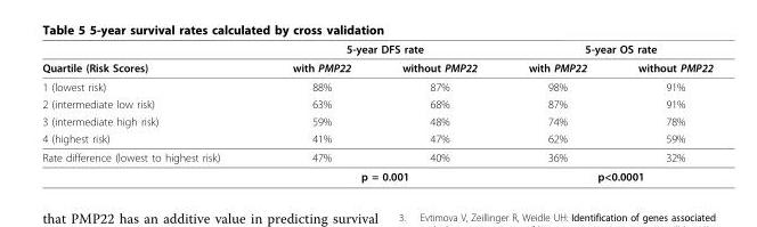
<table><thead><tr><td rowspan="2">Quartile (Risk Scores)</td><td colspan="2">5-year DFS rate</td><td colspan="2">5-year OS rate</td></tr><tr><td>with PMP22</td><td>without PMP22</td><td>with PMP22</td><td>without PMP22</td></tr></thead><tbody><tr><td>1 (lowest risk)</td><td>88%</td><td>87%</td><td>98%</td><td>91%</td></tr><tr><td>2 (intermediate low risk)</td><td>63%</td><td>68%</td><td>87%</td><td>91%</td></tr><tr><td>3 (intermediate high risk)</td><td>59%</td><td>48%</td><td>74%</td><td>78%</td></tr><tr><td>4 (highest risk)</td><td>41%</td><td>47%</td><td>62%</td><td>59%</td></tr><tr><td rowspan="2">Rate difference (lowest to highest risk)</td><td>47%</td><td>40%</td><td>36%</td><td>32%</td></tr><tr><td colspan="2">p = 0.001</td><td colspan="2">p&lt;0.0001</td></tr></tbody></table>